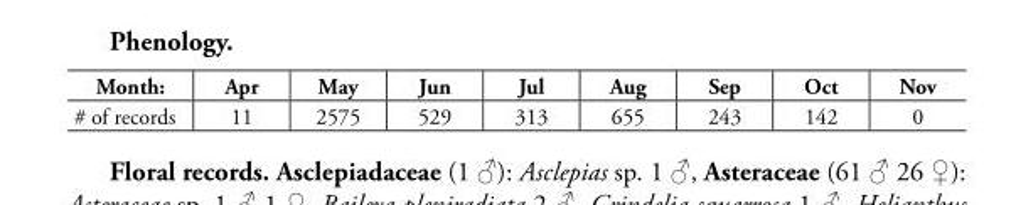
<table><tbody><tr><td>Month:</td><td>Apr</td><td>May</td><td>Jun</td><td>Jul</td><td>Aug</td><td>Sep</td><td>Oct</td><td>Nov</td></tr><tr><td># of records</td><td>11</td><td>2575</td><td>529</td><td>313</td><td>655</td><td>243</td><td>142</td><td>0</td></tr></tbody></table>